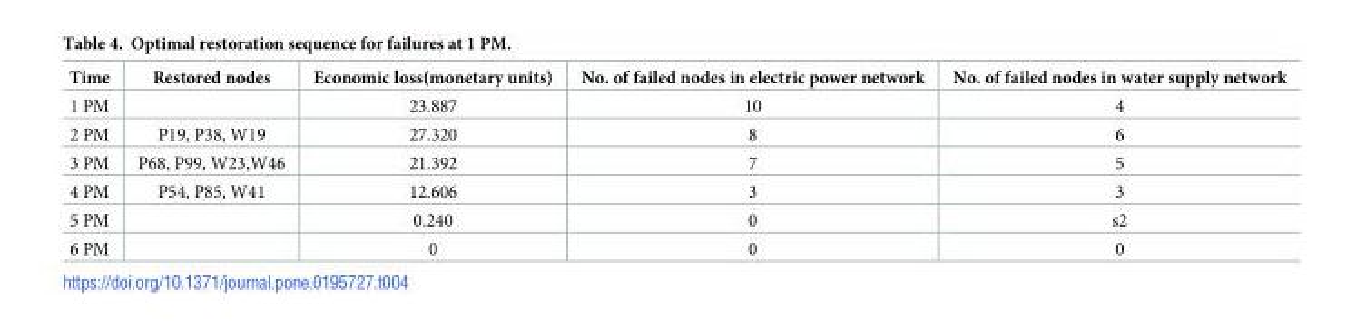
<table><thead><tr><td>Time</td><td>Restored nodes</td><td>Economic loss(monetary units)</td><td>No. of failed nodes in electric power network</td><td>No. of failed nodes in water supply network</td></tr></thead><tbody><tr><td>1 PM</td><td></td><td>23.887</td><td>10</td><td>4</td></tr><tr><td>2 PM</td><td>P19, P38, W19</td><td>27.320</td><td>8</td><td>6</td></tr><tr><td>3 PM</td><td>P68, P99, W23,W46</td><td>21.392</td><td>7</td><td>5</td></tr><tr><td>4 PM</td><td>P54, P85, W41</td><td>12.606</td><td>3</td><td>3</td></tr><tr><td>5 PM</td><td></td><td>0.240</td><td>0</td><td>s2</td></tr><tr><td>6 PM</td><td></td><td>0</td><td>0</td><td>0</td></tr></tbody></table>